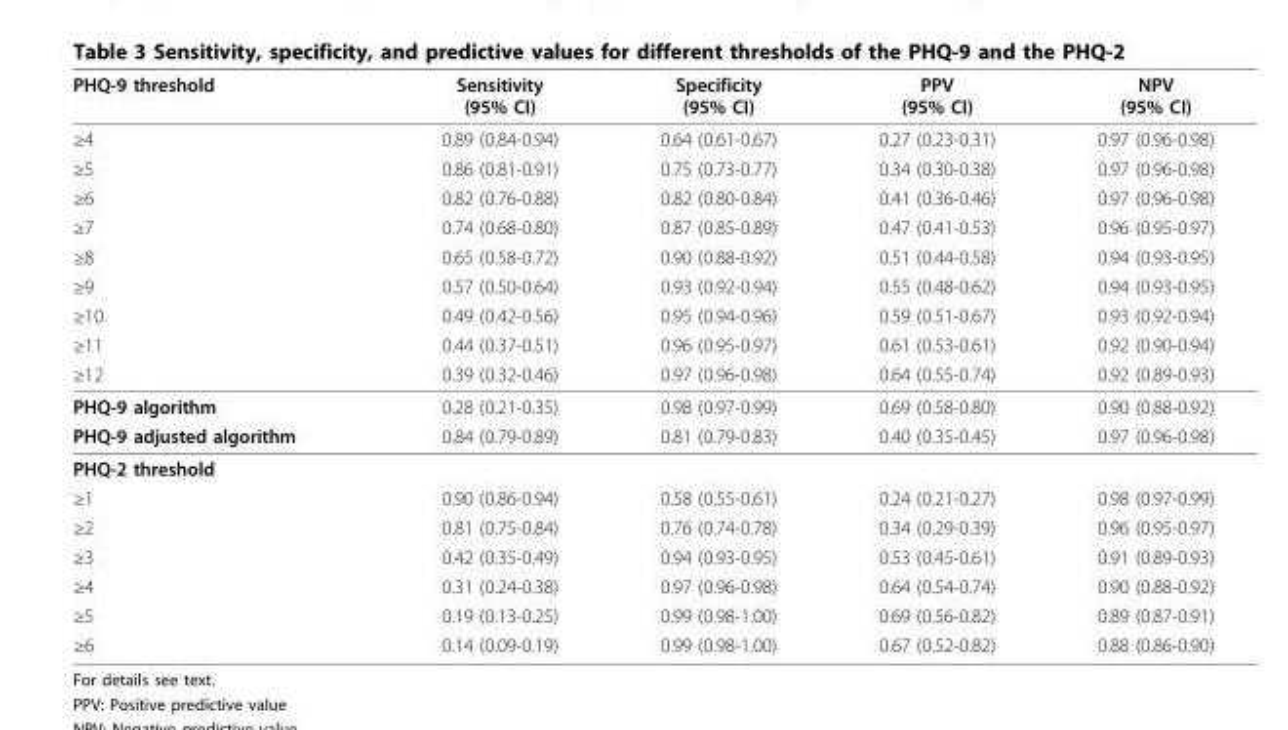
<table><thead><tr><td>PHQ-9 threshold</td><td>Sensitivity (95% CI)</td><td>Specificity (95% CI)</td><td>PPV (95% CI)</td><td>NPV (95% CI)</td></tr></thead><tbody><tr><td>≥4</td><td>0.89 (0.84-0.94)</td><td>0.64 (0.61-0.67)</td><td>0.27 (0.23-0.31)</td><td>0.97 (0.96-0.98)</td></tr><tr><td>≥5</td><td>0.86 (0.81-0.91)</td><td>0.75 (0.73-0.77)</td><td>0.34 (0.30-0.38)</td><td>0.97 (0.96-0.98)</td></tr><tr><td>≥6</td><td>0.82 (0.76-0.88)</td><td>0.82 (0.80-0.84)</td><td>0.41 (0.36-0.46)</td><td>0.97 (0.96-0.98)</td></tr><tr><td>≥7</td><td>0.74 (0.68-0.80)</td><td>0.87 (0.85-0.89)</td><td>0.47 (0.41-0.53)</td><td>0.96 (0.95-0.97)</td></tr><tr><td>≥8</td><td>0.65 (0.58-0.72)</td><td>0.90 (0.88-0.92)</td><td>0.51 (0.44-0.58)</td><td>0.94 (0.93-0.95)</td></tr><tr><td>≥9</td><td>0.57 (0.50-0.64)</td><td>0.93 (0.92-0.94)</td><td>0.55 (0.48-0.62)</td><td>0.94 (0.93-0.95)</td></tr><tr><td>≥10</td><td>0.49 (0.42-0.56)</td><td>0.95 (0.94-0.96)</td><td>0.59 (0.51-0.67)</td><td>0.93 (0.92-0.94)</td></tr><tr><td>≥11</td><td>0.44 (0.37-0.51)</td><td>0.96 (0.95-0.97)</td><td>0.61 (0.53-0.61)</td><td>0.92 (0.90-0.94)</td></tr><tr><td>≥12</td><td>0.39 (0.32-0.46)</td><td>0.97 (0.96-0.98)</td><td>0.64 (0.55-0.74)</td><td>0.92 (0.89-0.93)</td></tr><tr><td>PHQ-9 algorithm</td><td>0.28 (0.21-0.35)</td><td>0.98 (0.97-0.99)</td><td>0.69 (0.58-0.80)</td><td>0.90 (0.88-0.92)</td></tr><tr><td>PHQ-9 adjusted algorithm</td><td>0.84 (0.79-0.89)</td><td>0.81 (0.79-0.83)</td><td>0.40 (0.35-0.45)</td><td>0.97 (0.96-0.98)</td></tr><tr><td colspan="5">PHQ-2 threshold</td></tr><tr><td>≥1</td><td>0.90 (0.86-0.94)</td><td>0.58 (0.55-0.61)</td><td>0.24 (0.21-0.27)</td><td>0.98 (0.97-0.99)</td></tr><tr><td>≥2</td><td>0.81 (0.75-0.84)</td><td>0.76 (0.74-0.78)</td><td>0.34 (0.29-0.39)</td><td>0.96 (0.95-0.97)</td></tr><tr><td>≥3</td><td>0.42 (0.35-0.49)</td><td>0.94 (0.93-0.95)</td><td>0.53 (0.45-0.61)</td><td>0.91 (0.89-0.93)</td></tr><tr><td>≥4</td><td>0.31 (0.24-0.38)</td><td>0.97 (0.96-0.98)</td><td>0.64 (0.54-0.74)</td><td>0.90 (0.88-0.92)</td></tr><tr><td>≥5</td><td>0.19 (0.13-0.25)</td><td>0.99 (0.98-1.00)</td><td>0.69 (0.56-0.82)</td><td>0.89 (0.87-0.91)</td></tr><tr><td>≥6</td><td>0.14 (0.09-0.19)</td><td>0.99 (0.98-1.00)</td><td>0.67 (0.52-0.82)</td><td>0.88 (0.86-0.90)</td></tr></tbody></table>